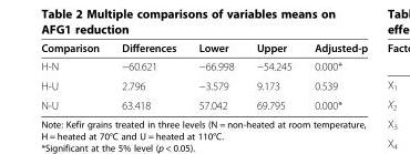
<table><thead><tr><td>Comparison</td><td>Differences</td><td>Lower</td><td>Upper</td><td>Adjusted-p</td></tr></thead><tbody><tr><td>H-N</td><td>−60.621</td><td>−66.998</td><td>−54.245</td><td>0.000*</td></tr><tr><td>H-U</td><td>2.796</td><td>−3.579</td><td>9.173</td><td>0.539</td></tr><tr><td>N-U</td><td>63.418</td><td>57.042</td><td>69.795</td><td>0.000*</td></tr></tbody></table>